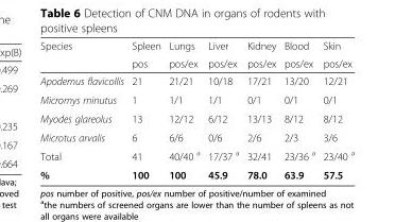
<table><thead><tr><td rowspan="2">Species</td><td rowspan="2">Spleen pos</td><td rowspan="2">Lungs pos/ex</td><td rowspan="2">Liver pos/ex</td><td rowspan="2">Kidney pos/ex</td><td rowspan="2">Blood pos/ex</td><td rowspan="2">Skin pos/ex</td></tr><tr></tr></thead><tbody><tr><td>Apodemus flavicollis</td><td>21</td><td>21/21</td><td>10/18</td><td>17/21</td><td>13/20</td><td>12/21</td></tr><tr><td>Micromys minutus</td><td>1</td><td>1/1</td><td>1/1</td><td>0/1</td><td>0/1</td><td>0/1</td></tr><tr><td>Myodes glareolus</td><td>13</td><td>12/12</td><td>6/12</td><td>13/13</td><td>8/12</td><td>8/12</td></tr><tr><td>Microtus arvalis</td><td>6</td><td>6/6</td><td>0/6</td><td>2/6</td><td>2/3</td><td>3/6</td></tr><tr><td>Total</td><td>41</td><td>40/40 <sup>a</sup></td><td>17/37 <sup>a</sup></td><td>32/41</td><td>23/36 <sup>a</sup></td><td>23/40 <sup>a</sup></td></tr><tr><td>%</td><td>100</td><td>100</td><td>45.9</td><td>78.0</td><td>63.9</td><td>57.5</td></tr></tbody></table>